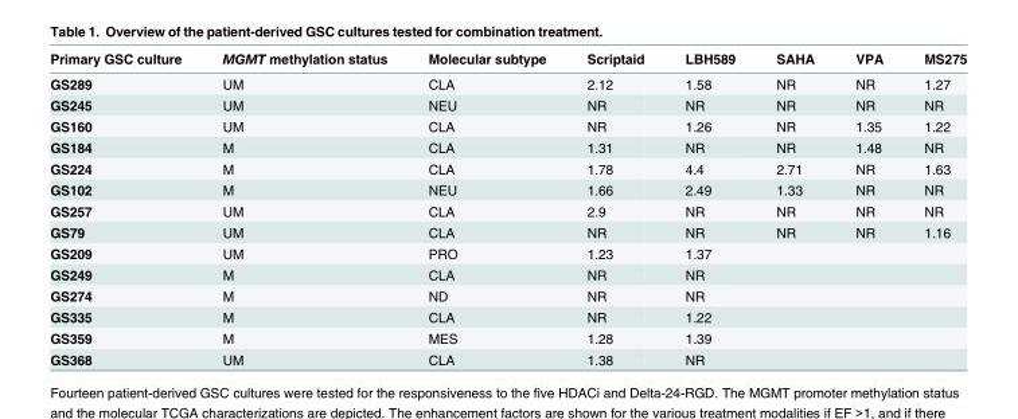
<table><thead><tr><td>Primary GSC culture</td><td>MGMT methylation status</td><td>Molecular subtype</td><td>Scriptaid</td><td>LBH589</td><td>SAHA</td><td>VPA</td><td>MS275</td></tr></thead><tbody><tr><td>GS289</td><td>UM</td><td>CLA</td><td>2.12</td><td>1.58</td><td>NR</td><td>NR</td><td>1.27</td></tr><tr><td>GS245</td><td>UM</td><td>NEU</td><td>NR</td><td>NR</td><td>NR</td><td>NR</td><td>NR</td></tr><tr><td>GS160</td><td>UM</td><td>CLA</td><td>NR</td><td>1.26</td><td>NR</td><td>1.35</td><td>1.22</td></tr><tr><td>GS184</td><td>M</td><td>CLA</td><td>1.31</td><td>NR</td><td>NR</td><td>1.48</td><td>NR</td></tr><tr><td>GS224</td><td>M</td><td>CLA</td><td>1.78</td><td>4.4</td><td>2.71</td><td>NR</td><td>1.63</td></tr><tr><td>GS102</td><td>M</td><td>NEU</td><td>1.66</td><td>2.49</td><td>1.33</td><td>NR</td><td>NR</td></tr><tr><td>GS257</td><td>UM</td><td>CLA</td><td>2.9</td><td>NR</td><td>NR</td><td>NR</td><td>NR</td></tr><tr><td>GS79</td><td>UM</td><td>CLA</td><td>NR</td><td>NR</td><td>NR</td><td>NR</td><td>1.16</td></tr><tr><td>GS209</td><td>UM</td><td>PRO</td><td>1.23</td><td>1.37</td><td></td><td></td><td></td></tr><tr><td>GS249</td><td>M</td><td>CLA</td><td>NR</td><td>NR</td><td></td><td></td><td></td></tr><tr><td>GS274</td><td>M</td><td>ND</td><td>NR</td><td>NR</td><td></td><td></td><td></td></tr><tr><td>GS335</td><td>M</td><td>CLA</td><td>NR</td><td>1.22</td><td></td><td></td><td></td></tr><tr><td>GS359</td><td>M</td><td>MES</td><td>1.28</td><td>1.39</td><td></td><td></td><td></td></tr><tr><td>GS368</td><td>UM</td><td>CLA</td><td>1.38</td><td>NR</td><td></td><td></td><td></td></tr></tbody></table>